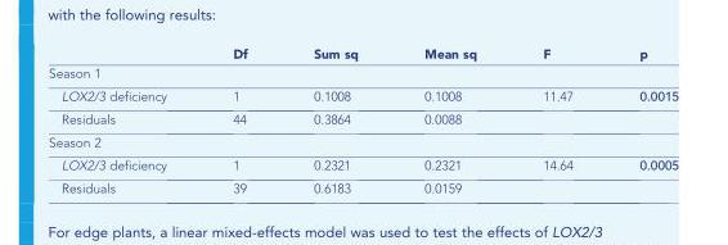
<table><thead><tr><td></td><td>Df</td><td>Sum sq</td><td>Mean sq</td><td>F</td><td>p</td></tr></thead><tbody><tr><td colspan="6">Season 1</td></tr><tr><td>LOX2/3 deficiency</td><td>1</td><td>0.1008</td><td>0.1008</td><td>11.47</td><td>0.0015</td></tr><tr><td>Residuals</td><td>44</td><td>0.3864</td><td>0.0088</td><td></td><td></td></tr><tr><td colspan="6">Season 2</td></tr><tr><td>LOX2/3 deficiency</td><td>1</td><td>0.2321</td><td>0.2321</td><td>14.64</td><td>0.0005</td></tr><tr><td>Residuals</td><td>39</td><td>0.6183</td><td>0.0159</td><td></td><td></td></tr></tbody></table>